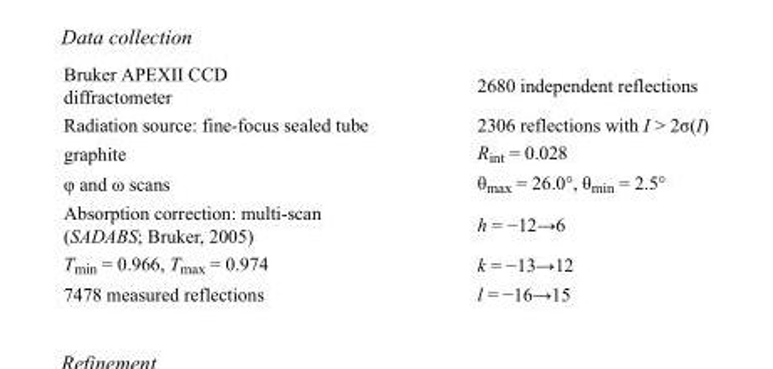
<table><tbody><tr><td>Bruker APEXII CCD diffractometer</td><td>2680 independent reflections</td></tr><tr><td>Radiation source: fine-focus sealed tube</td><td>2306 reflections with I &gt; 2σ(I)</td></tr><tr><td>graphite</td><td>R<sub>int</sub> = 0.028</td></tr><tr><td>φ and ω scans</td><td>θ<sub>max</sub> = 26.0°, θ<sub>min</sub> = 2.5°</td></tr><tr><td>Absorption correction: multi-scan (SADABS; Bruker, 2005)</td><td>h = −12→6</td></tr><tr><td>T<sub>min</sub> = 0.966, T<sub>max</sub> = 0.974</td><td>k = −13→12</td></tr><tr><td>7478 measured reflections</td><td>l = −16→15</td></tr></tbody></table>